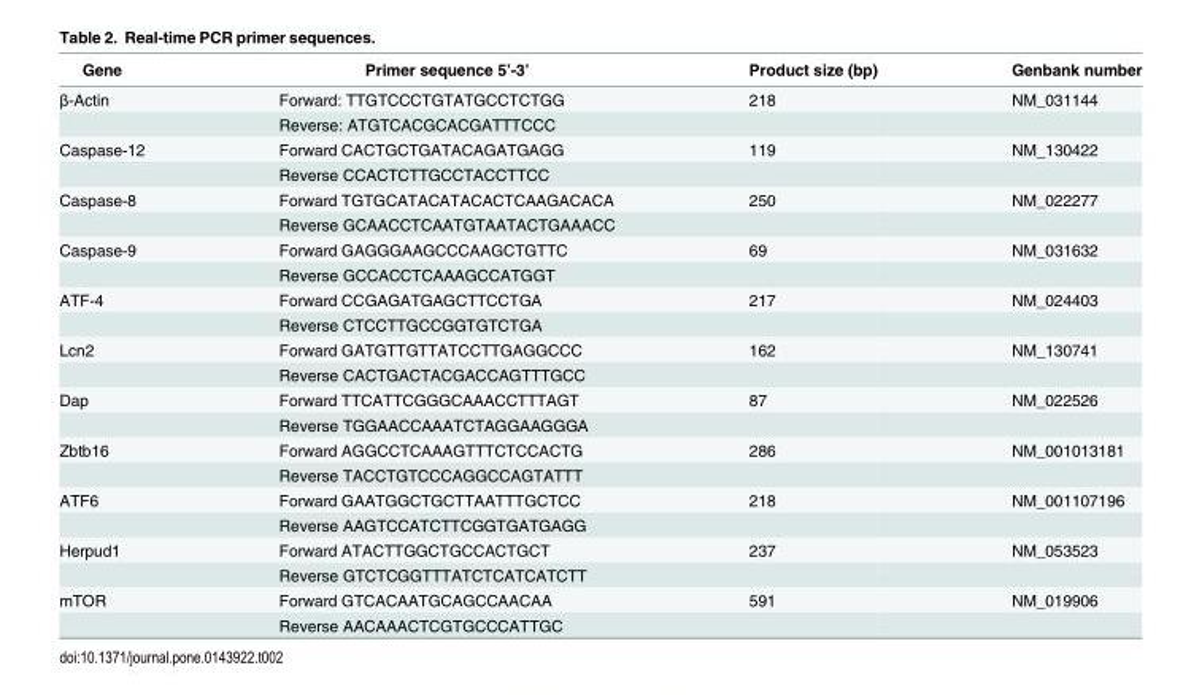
<table><thead><tr><td>Gene</td><td>Primer sequence 5’-3’</td><td>Product size (bp)</td><td>Genbank number</td></tr></thead><tbody><tr><td rowspan="2">β-Actin</td><td>Forward: TTGTCCCTGTATGCCTCTGG</td><td>218</td><td>NM_031144</td></tr><tr><td>Reverse: ATGTCACGCACGATTTCCC</td><td></td><td></td></tr><tr><td rowspan="2">Caspase-12</td><td>Forward CACTGCTGATACAGATGAGG</td><td>119</td><td>NM_130422</td></tr><tr><td>Reverse CCACTCTTGCCTACCTTCC</td><td></td><td></td></tr><tr><td rowspan="2">Caspase-8</td><td>Forward TGTGCATACATACACTCAAGACACA</td><td>250</td><td>NM_022277</td></tr><tr><td>Reverse GCAACCTCAATGTAATACTGAAACC</td><td></td><td></td></tr><tr><td rowspan="2">Caspase-9</td><td>Forward GAGGGAAGCCCAAGCTGTTC</td><td>69</td><td>NM_031632</td></tr><tr><td>Reverse GCCACCTCAAAGCCATGGT</td><td></td><td></td></tr><tr><td rowspan="2">ATF-4</td><td>Forward CCGAGATGAGCTTCCTGA</td><td>217</td><td>NM_024403</td></tr><tr><td>Reverse CTCCTTGCCGGTGTCTGA</td><td></td><td></td></tr><tr><td rowspan="2">Lcn2</td><td>Forward GATGTTGTTATCCTTGAGGCCC</td><td>162</td><td>NM_130741</td></tr><tr><td>Reverse CACTGACTACGACCAGTTTGCC</td><td></td><td></td></tr><tr><td rowspan="2">Dap</td><td>Forward TTCATTCGGGCAAACCTTTAGT</td><td>87</td><td>NM_022526</td></tr><tr><td>Reverse TGGAACCAAATCTAGGAAGGGA</td><td></td><td></td></tr><tr><td rowspan="2">Zbtb16</td><td>Forward AGGCCTCAAAGTTTCTCCACTG</td><td>286</td><td>NM_001013181</td></tr><tr><td>Reverse TACCTGTCCCAGGCCAGTATTT</td><td></td><td></td></tr><tr><td rowspan="2">ATF6</td><td>Forward GAATGGCTGCTTAATTTGCTCC</td><td>218</td><td>NM_001107196</td></tr><tr><td>Reverse AAGTCCATCTTCGGTGATGAGG</td><td></td><td></td></tr><tr><td rowspan="2">Herpud1</td><td>Forward ATACTTGGCTGCCACTGCT</td><td>237</td><td>NM_053523</td></tr><tr><td>Reverse GTCTCGGTTTATCTCATCATCTT</td><td></td><td></td></tr><tr><td rowspan="2">mTOR</td><td>Forward GTCACAATGCAGCCAACAA</td><td>591</td><td>NM_019906</td></tr><tr><td>Reverse AACAAACTCGTGCCCATTGC</td><td></td><td></td></tr></tbody></table>